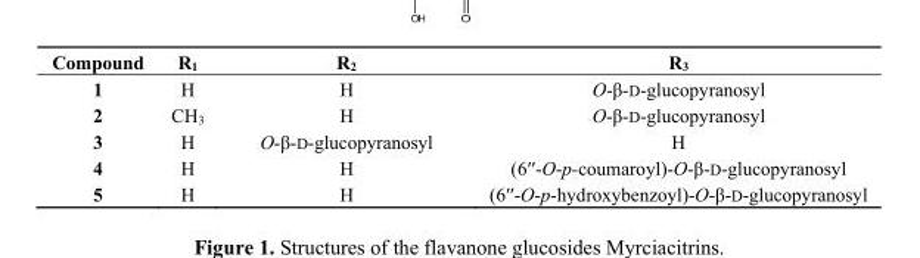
<table><thead><tr><td>Compound</td><td>R<sub>1</sub></td><td>R<sub>2</sub></td><td>R<sub>3</sub></td></tr></thead><tbody><tr><td>1</td><td>H</td><td>H</td><td>O-β-D-glucopyranosyl</td></tr><tr><td>2</td><td>CH<sub>3</sub></td><td>H</td><td>O-β-D-glucopyranosyl</td></tr><tr><td>3</td><td>H</td><td>O-β-D-glucopyranosyl</td><td>H</td></tr><tr><td>4</td><td>H</td><td>H</td><td>(6ʹʹ-O-p-coumaroyl)-O-β-D-glucopyranosyl</td></tr><tr><td>5</td><td>H</td><td>H</td><td>(6ʹʹ-O-p-hydroxybenzoyl)-O-β-D-glucopyranosyl</td></tr></tbody></table>